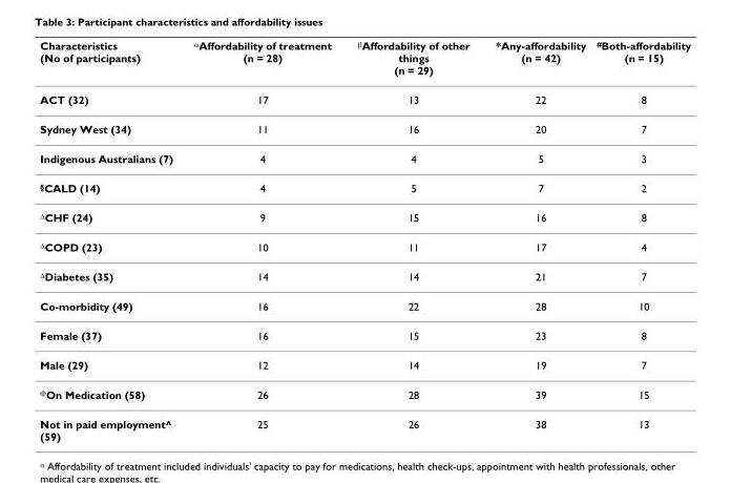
<table><thead><tr><td>Characteristics (No of participants)</td><td><sup>α</sup>Affordability of treatment (n = 28)</td><td><sup>β</sup>Affordability of other things (n = 29)</td><td>*Any-affordability (n = 42)</td><td><sup>#</sup>Both-affordability (n = 15)</td></tr></thead><tbody><tr><td>ACT (32)</td><td>17</td><td>13</td><td>22</td><td>8</td></tr><tr><td>Sydney West (34)</td><td>11</td><td>16</td><td>20</td><td>7</td></tr><tr><td>Indigenous Australians (7)</td><td>4</td><td>4</td><td>5</td><td>3</td></tr><tr><td><sup>§</sup>CALD (14)</td><td>4</td><td>5</td><td>7</td><td>2</td></tr><tr><td><sup>Δ</sup>CHF (24)</td><td>9</td><td>15</td><td>16</td><td>8</td></tr><tr><td><sup>Δ</sup>COPD (23)</td><td>10</td><td>11</td><td>17</td><td>4</td></tr><tr><td><sup>Δ</sup>Diabetes (35)</td><td>14</td><td>14</td><td>21</td><td>7</td></tr><tr><td>Co-morbidity (49)</td><td>16</td><td>22</td><td>28</td><td>10</td></tr><tr><td>Female (37)</td><td>16</td><td>15</td><td>23</td><td>8</td></tr><tr><td>Male (29)</td><td>12</td><td>14</td><td>19</td><td>7</td></tr><tr><td><sup>Φ</sup>On Medication (58)</td><td>26</td><td>28</td><td>39</td><td>15</td></tr><tr><td>Not in paid employment^ (59)</td><td>25</td><td>26</td><td>38</td><td>13</td></tr></tbody></table>